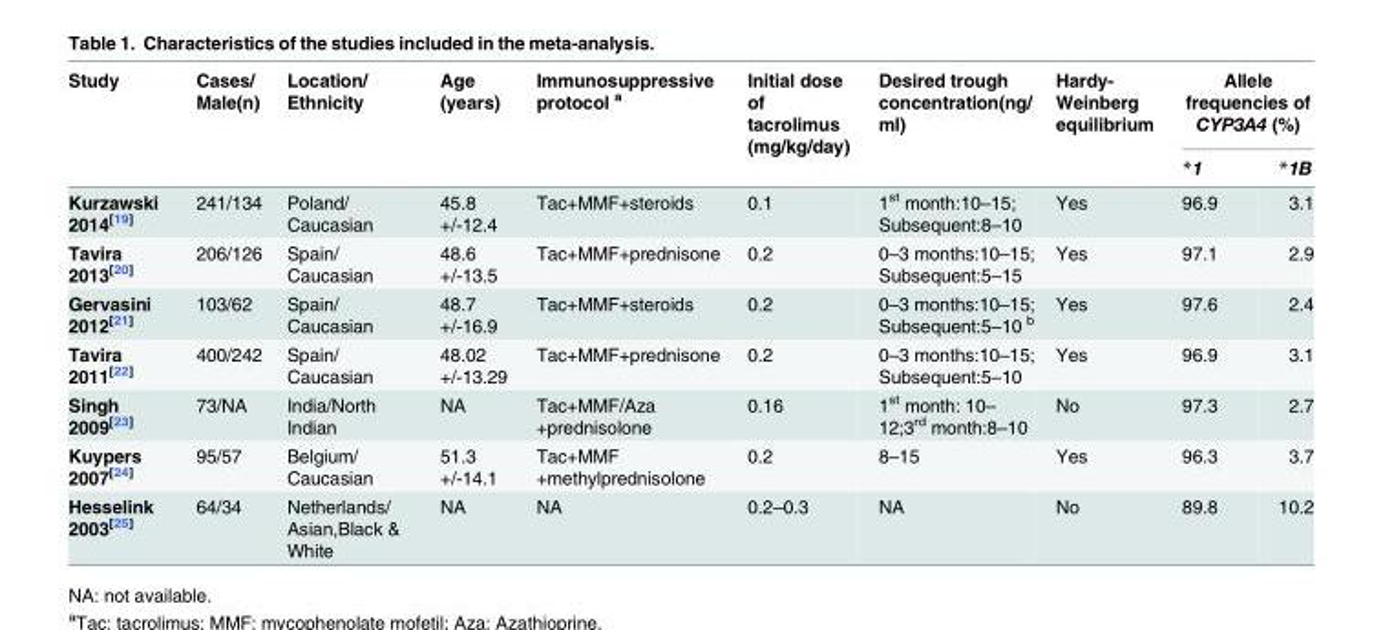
<table><thead><tr><td rowspan="2">Study</td><td rowspan="2">Cases/ Male(n)</td><td rowspan="2">Location/ Ethnicity</td><td rowspan="2">Age (years)</td><td rowspan="2">Immunosuppressive protocol <sup>a</sup></td><td rowspan="2">Initial dose of tacrolimus (mg/kg/day)</td><td rowspan="2">Desired trough concentration(ng/ ml)</td><td rowspan="2">Hardy- Weinberg equilibrium</td><td colspan="2">Allele frequencies of CYP3A4 (%)</td></tr><tr><td>*1</td><td>*1B</td></tr></thead><tbody><tr><td>Kurzawski 2014<sup>[19]</sup></td><td>241/134</td><td>Poland/ Caucasian</td><td>45.8 +/-12.4</td><td>Tac+MMF+steroids</td><td>0.1</td><td>1<sup>st</sup> month:10–15; Subsequent:8–10</td><td>Yes</td><td>96.9</td><td>3.1</td></tr><tr><td>Tavira 2013<sup>[20]</sup></td><td>206/126</td><td>Spain/ Caucasian</td><td>48.6 +/-13.5</td><td>Tac+MMF+prednisone</td><td>0.2</td><td>0–3 months:10–15; Subsequent:5–15</td><td>Yes</td><td>97.1</td><td>2.9</td></tr><tr><td>Gervasini 2012<sup>[21]</sup></td><td>103/62</td><td>Spain/ Caucasian</td><td>48.7 +/-16.9</td><td>Tac+MMF+steroids</td><td>0.2</td><td>0–3 months:10–15; Subsequent:5–10 <sup>b</sup></td><td>Yes</td><td>97.6</td><td>2.4</td></tr><tr><td>Tavira 2011<sup>[22]</sup></td><td>400/242</td><td>Spain/ Caucasian</td><td>48.02 +/-13.29</td><td>Tac+MMF+prednisone</td><td>0.2</td><td>0–3 months:10–15; Subsequent:5–10</td><td>Yes</td><td>96.9</td><td>3.1</td></tr><tr><td>Singh 2009<sup>[23]</sup></td><td>73/NA</td><td>India/North Indian</td><td>NA</td><td>Tac+MMF/Aza +prednisolone</td><td>0.16</td><td>1<sup>st</sup> month: 10– 12;3<sup>rd</sup> month:8–10</td><td>No</td><td>97.3</td><td>2.7</td></tr><tr><td>Kuypers 2007<sup>[24]</sup></td><td>95/57</td><td>Belgium/ Caucasian</td><td>51.3 +/-14.1</td><td>Tac+MMF +methylprednisolone</td><td>0.2</td><td>8–15</td><td>Yes</td><td>96.3</td><td>3.7</td></tr><tr><td>Hesselink 2003<sup>[25]</sup></td><td>64/34</td><td>Netherlands/ Asian,Black &amp; White</td><td>NA</td><td>NA</td><td>0.2–0.3</td><td>NA</td><td>No</td><td>89.8</td><td>10.2</td></tr></tbody></table>